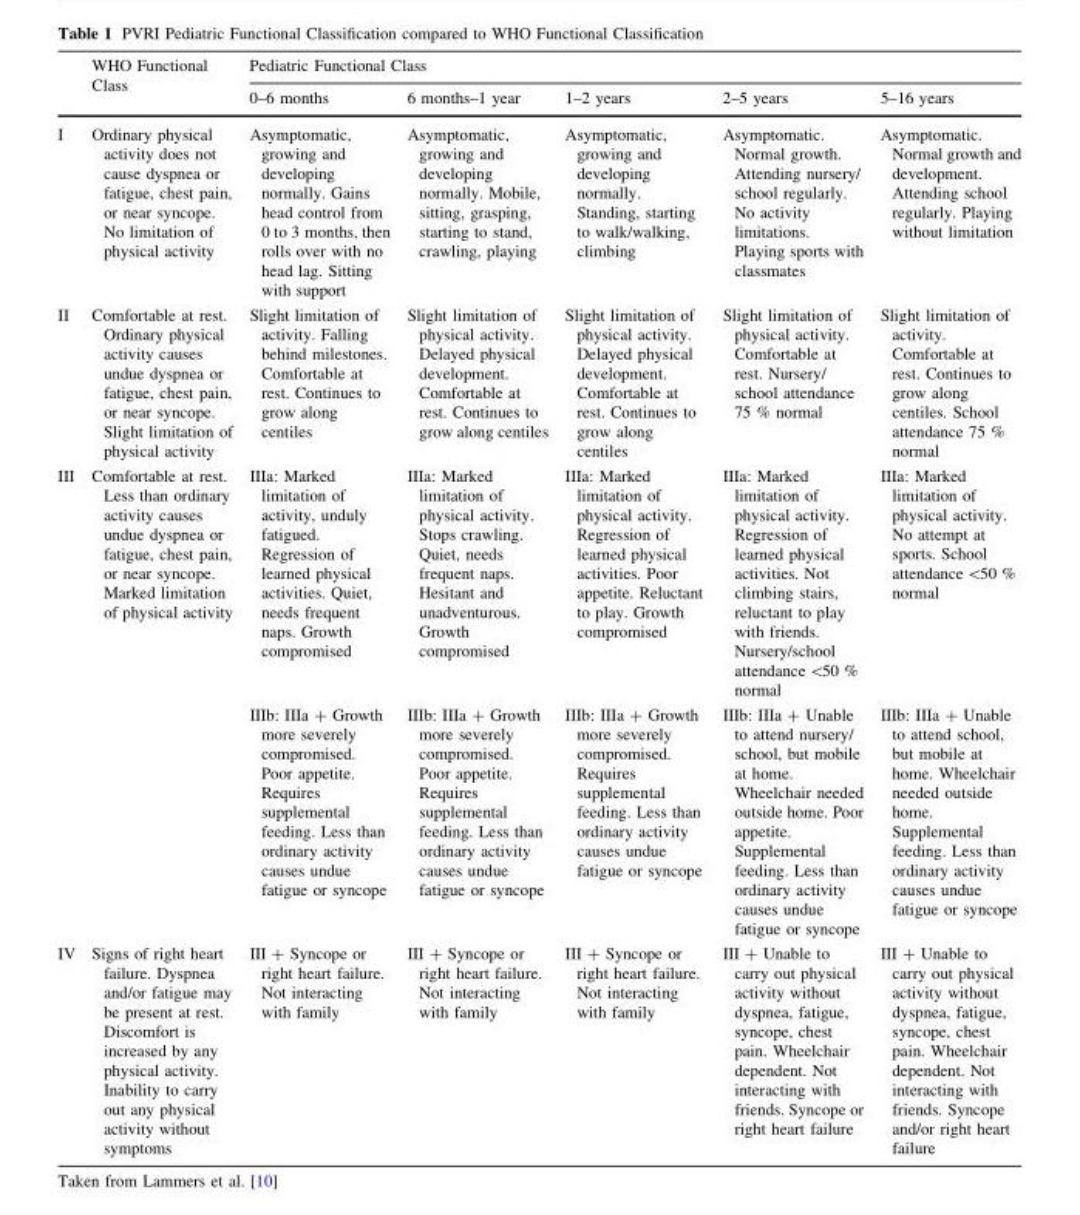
<table><thead><tr><td rowspan="2"></td><td rowspan="2">WHO Functional Class</td><td colspan="5">Pediatric Functional Class</td></tr><tr><td>0–6 months</td><td>6 months–1 year</td><td>1–2 years</td><td>2–5 years</td><td>5–16 years</td></tr></thead><tbody><tr><td>I</td><td>Ordinary physical activity does not cause dyspnea or fatigue, chest pain, or near syncope. No limitation of physical activity</td><td>Asymptomatic, growing and developing normally. Gains head control from 0 to 3 months, then rolls over with no head lag. Sitting with support</td><td>Asymptomatic, growing and developing normally. Mobile, sitting, grasping, starting to stand, crawling, playing</td><td>Asymptomatic, growing and developing normally. Standing, starting to walk/walking, climbing</td><td>Asymptomatic. Normal growth. Attending nursery/ school regularly. No activity limitations. Playing sports with classmates</td><td>Asymptomatic. Normal growth and development. Attending school regularly. Playing without limitation</td></tr><tr><td>II</td><td>Comfortable at rest. Ordinary physical activity causes undue dyspnea or fatigue, chest pain, or near syncope. Slight limitation of physical activity</td><td>Slight limitation of activity. Falling behind milestones. Comfortable at rest. Continues to grow along centiles</td><td>Slight limitation of physical activity. Delayed physical development. Comfortable at rest. Continues to grow along centiles</td><td>Slight limitation of physical activity. Delayed physical development. Comfortable at rest. Continues to grow along centiles</td><td>Slight limitation of physical activity. Comfortable at rest. Nursery/ school attendance 75 % normal</td><td>Slight limitation of activity. Comfortable at rest. Continues to grow along centiles. School attendance 75 % normal</td></tr><tr><td rowspan="2">III</td><td>Comfortable at rest. Less than ordinary activity causes undue dyspnea or fatigue, chest pain, or near syncope. Marked limitation of physical activity</td><td>IIIa: Marked limitation of activity, unduly fatigued. Regression of learned physical activities. Quiet, needs frequent naps. Growth compromised</td><td>IIIa: Marked limitation of physical activity. Stops crawling. Quiet, needs frequent naps. Hesitant and unadventurous. Growth compromised</td><td>IIIa: Marked limitation of physical activity. Regression of learned physical activities. Poor appetite. Reluctant to play. Growth compromised</td><td>IIIa: Marked limitation of physical activity. Regression of learned physical activities. Not climbing stairs, reluctant to play with friends. Nursery/school attendance &lt;50 % normal</td><td>IIIa: Marked limitation of physical activity. No attempt at sports. School attendance &lt;50 % normal</td></tr><tr><td></td><td>IIIb: IIIa + Growth more severely compromised. Poor appetite. Requires supplemental feeding. Less than ordinary activity causes undue fatigue or syncope</td><td>IIIb: IIIa + Growth more severely compromised. Poor appetite. Requires supplemental feeding. Less than ordinary activity causes undue fatigue or syncope</td><td>IIIb: IIIa + Growth more severely compromised. Requires supplemental feeding. Less than ordinary activity causes undue fatigue or syncope</td><td>IIIb: IIIa + Unable to attend nursery/ school, but mobile at home. Wheelchair needed outside home. Poor appetite. Supplemental feeding. Less than ordinary activity causes undue fatigue or syncope</td><td>IIIb: IIIa + Unable to attend school, but mobile at home. Wheelchair needed outside home. Supplemental feeding. Less than ordinary activity causes undue fatigue or syncope</td></tr><tr><td>IV</td><td>Signs of right heart failure. Dyspnea and/or fatigue may be present at rest. Discomfort is increased by any physical activity. Inability to carry out any physical activity without symptoms</td><td>III + Syncope or right heart failure. Not interacting with family</td><td>III + Syncope or right heart failure. Not interacting with family</td><td>III + Syncope or right heart failure. Not interacting with family</td><td>III + Unable to carry out physical activity without dyspnea, fatigue, syncope, chest pain. Wheelchair dependent. Not interacting with friends. Syncope or right heart failure</td><td>III + Unable to carry out physical activity without dyspnea, fatigue, syncope, chest pain. Wheelchair dependent. Not interacting with friends. Syncope and/or right heart failure</td></tr></tbody></table>